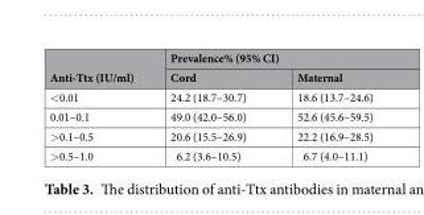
<table><thead><tr><td rowspan="2">Anti-Ttx (IU/ml)</td><td colspan="2">Prevalence% (95% CI)</td></tr><tr><td>Cord</td><td>Maternal</td></tr></thead><tbody><tr><td>&lt;0.01</td><td>24.2 (18.7–30.7)</td><td>18.6 (13.7–24.6)</td></tr><tr><td>0.01–0.1</td><td>49.0 (42.0–56.0)</td><td>52.6 (45.6–59.5)</td></tr><tr><td>&gt;0.1–0.5</td><td>20.6 (15.5–26.9)</td><td>22.2 (16.9–28.5)</td></tr><tr><td>&gt;0.5–1.0</td><td>6.2 (3.6–10.5)</td><td>6.7 (4.0–11.1)</td></tr></tbody></table>